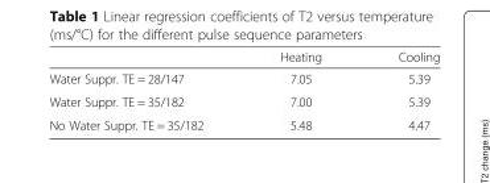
<table><thead><tr><td></td><td>Heating</td><td>Cooling</td></tr></thead><tbody><tr><td>Water Suppr. TE = 28/147</td><td>7.05</td><td>5.39</td></tr><tr><td>Water Suppr. TE = 35/182</td><td>7.00</td><td>5.39</td></tr><tr><td>No Water Suppr. TE = 35/182</td><td>5.48</td><td>4.47</td></tr></tbody></table>